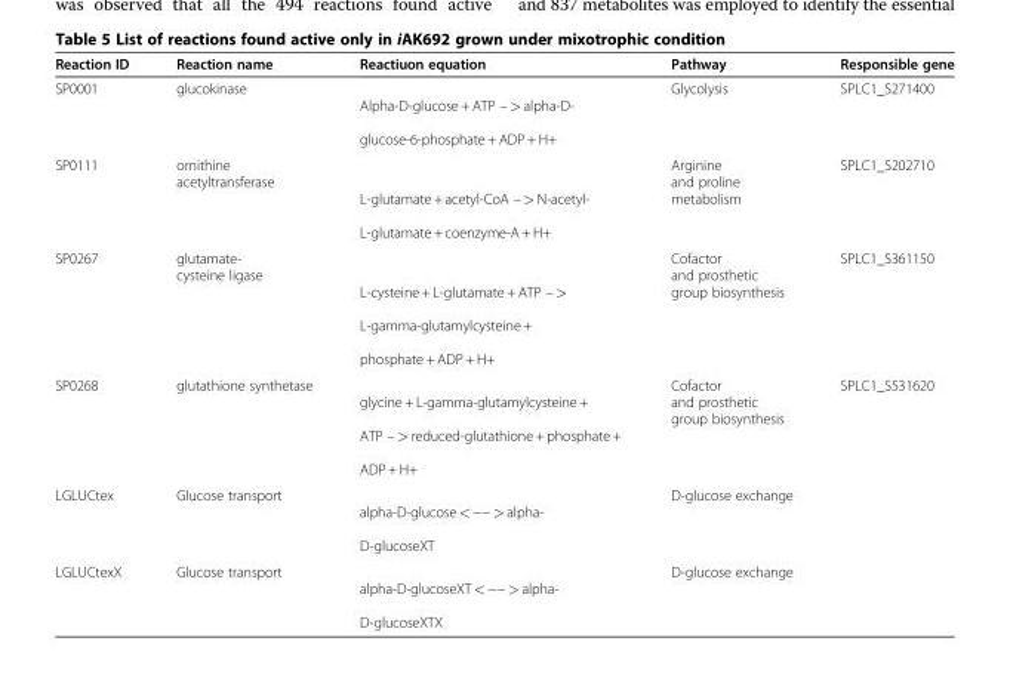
<table><thead><tr><td>Reaction ID</td><td>Reaction name</td><td>Reactiuon equation</td><td>Pathway</td><td>Responsible gene</td></tr></thead><tbody><tr><td>SP0001</td><td>glucokinase</td><td>Alpha-D-glucose + ATP – &gt; alpha-D- glucose-6-phosphate + ADP + H+</td><td>Glycolysis</td><td>SPLC1_S271400</td></tr><tr><td>SP0111</td><td>ornithine acetyltransferase</td><td>L-glutamate + acetyl-CoA – &gt; N-acetyl- L-glutamate + coenzyme-A + H+</td><td>Arginine and proline metabolism</td><td>SPLC1_S202710</td></tr><tr><td>SP0267</td><td>glutamate- cysteine ligase</td><td>L-cysteine + L-glutamate + ATP – &gt; L-gamma-glutamylcysteine + phosphate + ADP + H+</td><td>Cofactor and prosthetic group biosynthesis</td><td>SPLC1_S361150</td></tr><tr><td>SP0268</td><td>glutathione synthetase</td><td>glycine + L-gamma-glutamylcysteine + ATP – &gt; reduced-glutathione + phosphate + ADP + H+</td><td>Cofactor and prosthetic group biosynthesis</td><td>SPLC1_S531620</td></tr><tr><td>LGLUCtex</td><td>Glucose transport</td><td>alpha-D-glucose &lt; −− &gt; alpha- D-glucoseXT</td><td>D-glucose exchange</td><td></td></tr><tr><td>LGLUCtexX</td><td>Glucose transport</td><td>alpha-D-glucoseXT &lt; −− &gt; alpha- D-glucoseXTX</td><td>D-glucose exchange</td><td></td></tr></tbody></table>